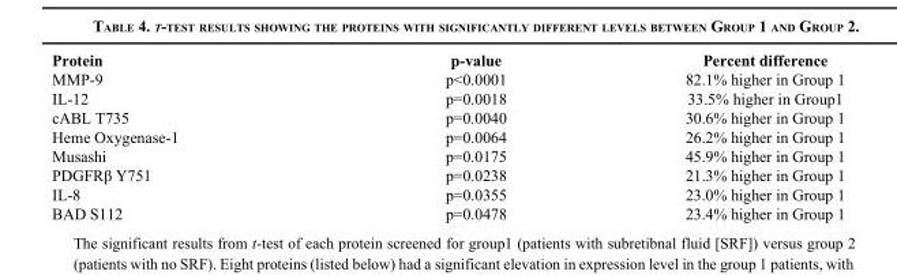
<table><thead><tr><td>Protein</td><td>p-value</td><td>Percent difference</td></tr></thead><tbody><tr><td>MMP-9</td><td>p&lt;0.0001</td><td>82.1% higher in Group 1</td></tr><tr><td>IL-12</td><td>p=0.0018</td><td>33.5% higher in Group1</td></tr><tr><td>cABL T735</td><td>p=0.0040</td><td>30.6% higher in Group 1</td></tr><tr><td>Heme Oxygenase-1</td><td>p=0.0064</td><td>26.2% higher in Group 1</td></tr><tr><td>Musashi</td><td>p=0.0175</td><td>45.9% higher in Group 1</td></tr><tr><td>PDGFRβ Y751</td><td>p=0.0238</td><td>21.3% higher in Group 1</td></tr><tr><td>IL-8</td><td>p=0.0355</td><td>23.0% higher in Group 1</td></tr><tr><td>BAD S112</td><td>p=0.0478</td><td>23.4% higher in Group 1</td></tr></tbody></table>